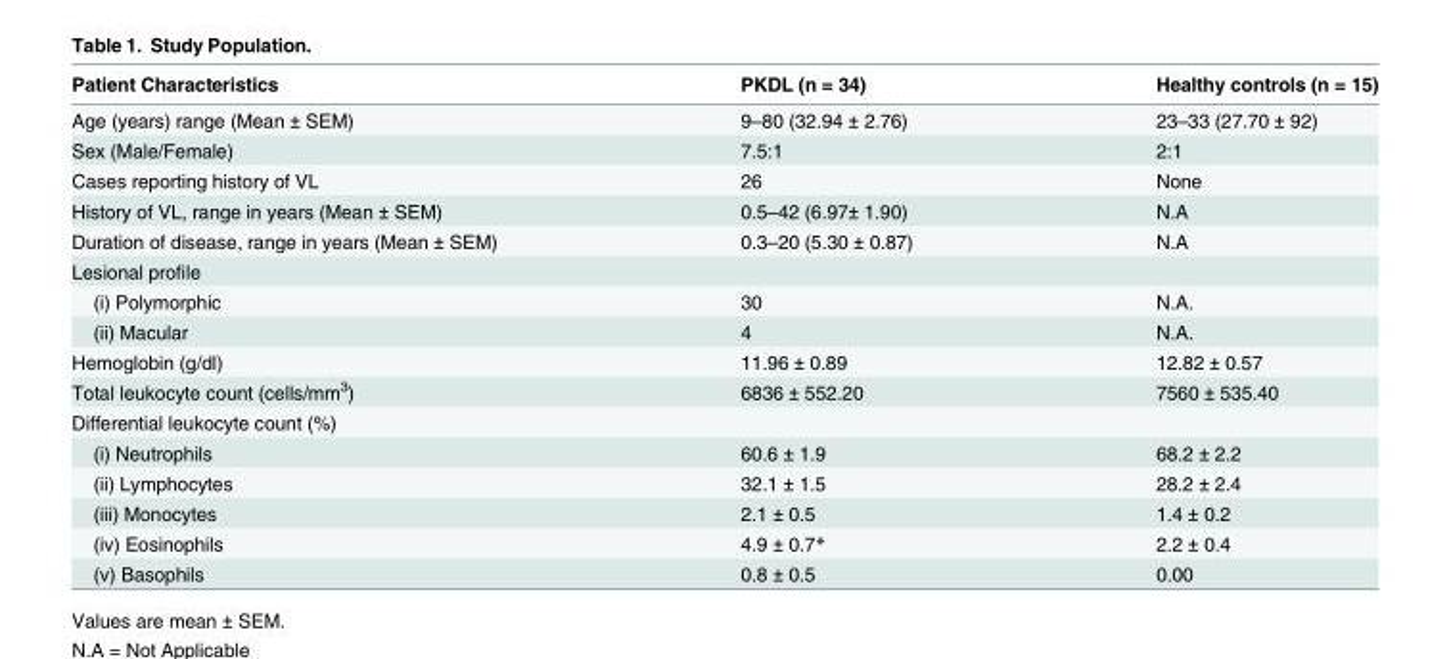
<table><thead><tr><td>Patient Characteristics</td><td>PKDL (n = 34)</td><td>Healthy controls (n = 15)</td></tr></thead><tbody><tr><td>Age (years) range (Mean ± SEM)</td><td>9–80 (32.94 ± 2.76)</td><td>23–33 (27.70 ± 92)</td></tr><tr><td>Sex (Male/Female)</td><td>7.5:1</td><td>2:1</td></tr><tr><td>Cases reporting history of VL</td><td>26</td><td>None</td></tr><tr><td>History of VL, range in years (Mean ± SEM)</td><td>0.5–42 (6.97± 1.90)</td><td>N.A</td></tr><tr><td>Duration of disease, range in years (Mean ± SEM)</td><td>0.3–20 (5.30 ± 0.87)</td><td>N.A</td></tr><tr><td colspan="3">Lesional profile</td></tr><tr><td>(i) Polymorphic</td><td>30</td><td>N.A.</td></tr><tr><td>(ii) Macular</td><td>4</td><td>N.A.</td></tr><tr><td>Hemoglobin (g/dl)</td><td>11.96 ± 0.89</td><td>12.82 ± 0.57</td></tr><tr><td>Total leukocyte count (cells/mm<sup>3</sup>)</td><td>6836 ± 552.20</td><td>7560 ± 535.40</td></tr><tr><td colspan="3">Differential leukocyte count (%)</td></tr><tr><td>(i) Neutrophils</td><td>60.6 ± 1.9</td><td>68.2 ± 2.2</td></tr><tr><td>(ii) Lymphocytes</td><td>32.1 ± 1.5</td><td>28.2 ± 2.4</td></tr><tr><td>(iii) Monocytes</td><td>2.1 ± 0.5</td><td>1.4 ± 0.2</td></tr><tr><td>(iv) Eosinophils</td><td>4.9 ± 0.7*</td><td>2.2 ± 0.4</td></tr><tr><td>(v) Basophils</td><td>0.8 ± 0.5</td><td>0.00</td></tr></tbody></table>